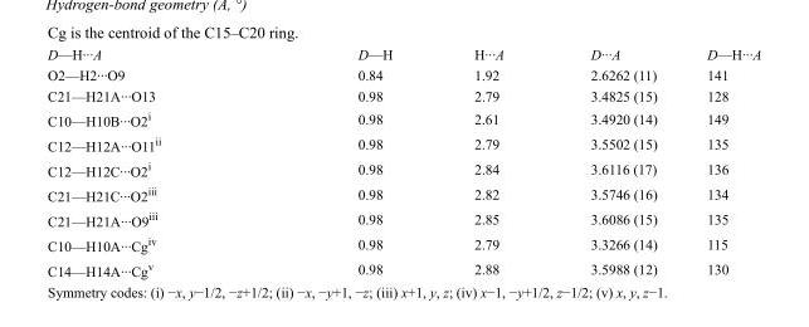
<table><tbody><tr><td>D—H···A</td><td>D—H</td><td>H···A</td><td>D···A</td><td>D—H···A</td></tr><tr><td>O2—H2···O9</td><td>0.84</td><td>1.92</td><td>2.6262 (11)</td><td>141</td></tr><tr><td>C21—H21A···O13</td><td>0.98</td><td>2.79</td><td>3.4825 (15)</td><td>128</td></tr><tr><td>C10—H10B···O2<sup>i</sup></td><td>0.98</td><td>2.61</td><td>3.4920 (14)</td><td>149</td></tr><tr><td>C12—H12A···O11<sup>ii</sup></td><td>0.98</td><td>2.79</td><td>3.5502 (15)</td><td>135</td></tr><tr><td>C12—H12C···O2<sup>i</sup></td><td>0.98</td><td>2.84</td><td>3.6116 (17)</td><td>136</td></tr><tr><td>C21—H21C···O2<sup>iii</sup></td><td>0.98</td><td>2.82</td><td>3.5746 (16)</td><td>134</td></tr><tr><td>C21—H21A···O9<sup>iii</sup></td><td>0.98</td><td>2.85</td><td>3.6086 (15)</td><td>135</td></tr><tr><td>C10—H10A···Cg<sup>iv</sup></td><td>0.98</td><td>2.79</td><td>3.3266 (14)</td><td>115</td></tr><tr><td>C14—H14A···Cg<sup>v</sup></td><td>0.98</td><td>2.88</td><td>3.5988 (12)</td><td>130</td></tr></tbody></table>